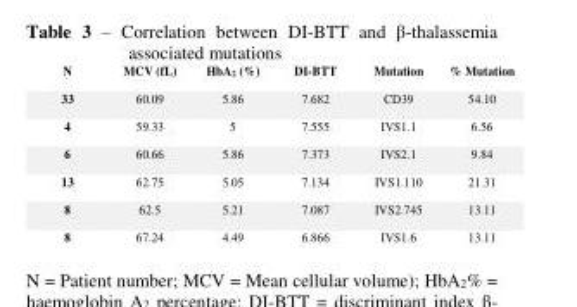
<table><thead><tr><td>N</td><td>MCV (fL)</td><td>HbA<sub>2</sub> (%)</td><td>DI-BTT</td><td>Mutation</td><td>% Mutation</td></tr></thead><tbody><tr><td>33</td><td>60.09</td><td>5.86</td><td>7.682</td><td>CD39</td><td>54.10</td></tr><tr><td>4</td><td>59.33</td><td>5</td><td>7.555</td><td>IVS1.1</td><td>6.56</td></tr><tr><td>6</td><td>60.66</td><td>5.86</td><td>7.373</td><td>IVS2.1</td><td>9.84</td></tr><tr><td>13</td><td>62.75</td><td>5.05</td><td>7.134</td><td>IVS1.110</td><td>21.31</td></tr><tr><td>8</td><td>62.5</td><td>5.21</td><td>7.087</td><td>IVS2.745</td><td>13.11</td></tr><tr><td>8</td><td>67.24</td><td>4.49</td><td>6.866</td><td>IVS1.6</td><td>13.11</td></tr></tbody></table>